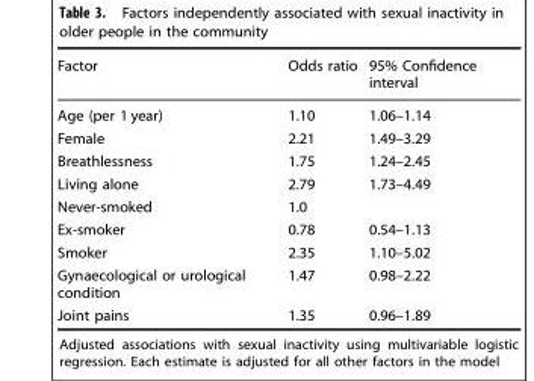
<table><thead><tr><td>Factor</td><td>Odds ratio</td><td>95% Confidence interval</td></tr></thead><tbody><tr><td>Age (per 1 year)</td><td>1.10</td><td>1.06–1.14</td></tr><tr><td>Female</td><td>2.21</td><td>1.49–3.29</td></tr><tr><td>Breathlessness</td><td>1.75</td><td>1.24–2.45</td></tr><tr><td>Living alone</td><td>2.79</td><td>1.73–4.49</td></tr><tr><td>Never-smoked</td><td>1.0</td><td></td></tr><tr><td>Ex-smoker</td><td>0.78</td><td>0.54–1.13</td></tr><tr><td>Smoker</td><td>2.35</td><td>1.10–5.02</td></tr><tr><td>Gynaecological or urological condition</td><td>1.47</td><td>0.98–2.22</td></tr><tr><td>Joint pains</td><td>1.35</td><td>0.96–1.89</td></tr></tbody></table>